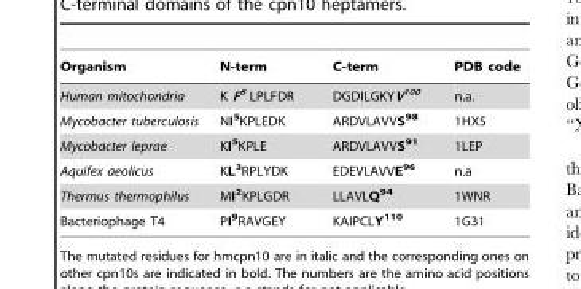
<table><thead><tr><td>Organism</td><td>N-term</td><td>C-term</td><td>PDB code</td></tr></thead><tbody><tr><td>Human mitochondria</td><td>K F<sup>8</sup> LPLFDR</td><td>DGDILGKYV<sup>100</sup></td><td>n.a.</td></tr><tr><td>Mycobacter tuberculosis</td><td>NI<sup>5</sup>KPLEDK</td><td>ARDVLAVVS<sup>98</sup></td><td>1HX5</td></tr><tr><td>Mycobacter leprae</td><td>KI<sup>5</sup>KPLE</td><td>ARDVLAVVS<sup>91</sup></td><td>1LEP</td></tr><tr><td>Aquifex aeolicus</td><td>KL<sup>3</sup>RPLYDK</td><td>EDEVLAVVE<sup>96</sup></td><td>n.a</td></tr><tr><td>Thermus thermophilus</td><td>MI<sup>2</sup>KPLGDR</td><td>LLAVLQ<sup>94</sup></td><td>1WNR</td></tr><tr><td>Bacteriophage T4</td><td>PI<sup>9</sup>RAVGEY</td><td>KAIPCLY<sup>110</sup></td><td>1G31</td></tr></tbody></table>